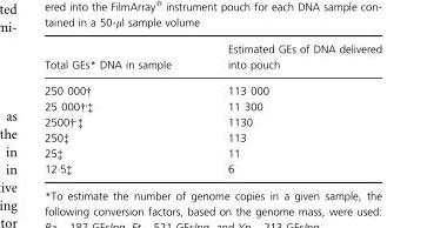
<table><thead><tr><td>Total GEs* DNA in sample</td><td>Estimated GEs of DNA delivered into pouch</td></tr></thead><tbody><tr><td>250 000†</td><td>113 000</td></tr><tr><td>25 000†<sup>,</sup>‡</td><td>11 300</td></tr><tr><td>2500†<sup>,</sup>‡</td><td>1130</td></tr><tr><td>250‡</td><td>113</td></tr><tr><td>25‡</td><td>11</td></tr><tr><td>12·5‡</td><td>6</td></tr></tbody></table>